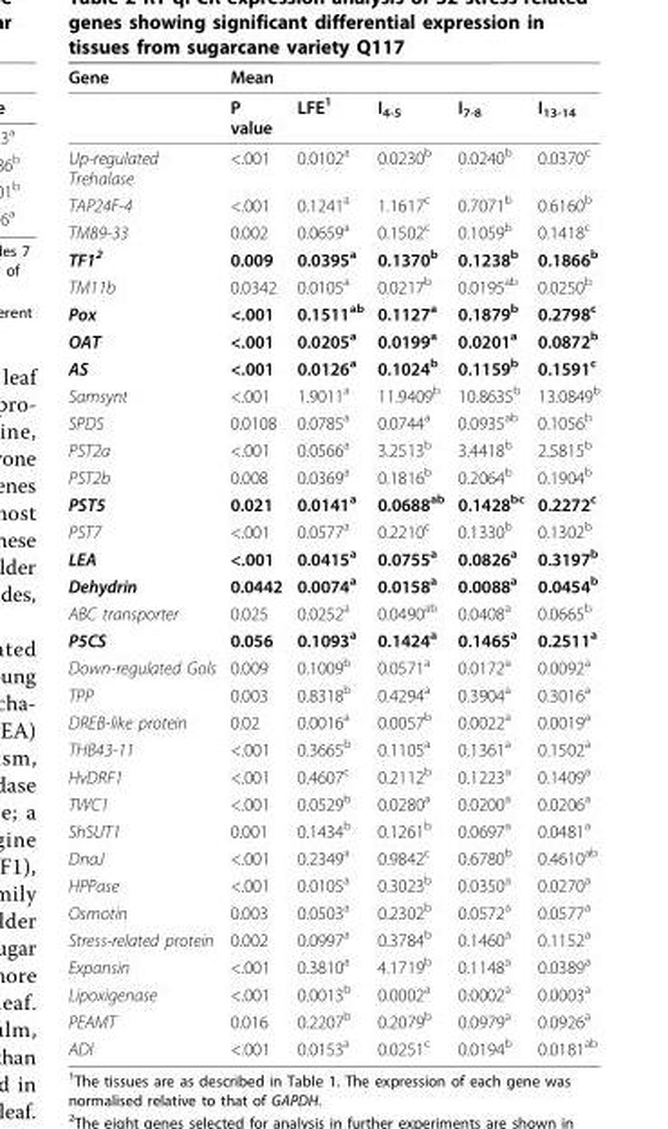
<table><thead><tr><td rowspan="2">Gene</td><td colspan="5">Mean</td></tr><tr><td>P value</td><td>LFE<sup>1</sup></td><td>I<sub>4-5</sub></td><td>I<sub>7-8</sub></td><td>I<sub>13-14</sub></td></tr></thead><tbody><tr><td>Up-regulated Trehalase</td><td>&lt;.001</td><td>0.0102<sup>a</sup></td><td>0.0230<sup>b</sup></td><td>0.0240<sup>b</sup></td><td>0.0370<sup>c</sup></td></tr><tr><td>TAP24F-4</td><td>&lt;.001</td><td>0.1241<sup>a</sup></td><td>1.1617<sup>c</sup></td><td>0.7071<sup>b</sup></td><td>0.6160<sup>b</sup></td></tr><tr><td>TM89-33</td><td>0.002</td><td>0.0659<sup>a</sup></td><td>0.1502<sup>c</sup></td><td>0.1059<sup>b</sup></td><td>0.1418<sup>c</sup></td></tr><tr><td>TF1<sup>2</sup></td><td>0.009</td><td>0.0395<sup>a</sup></td><td>0.1370<sup>b</sup></td><td>0.1238<sup>b</sup></td><td>0.1866<sup>b</sup></td></tr><tr><td>TM11b</td><td>0.0342</td><td>0.0105<sup>a</sup></td><td>0.0217<sup>b</sup></td><td>0.0195<sup>ab</sup></td><td>0.0250<sup>b</sup></td></tr><tr><td>Pox</td><td>&lt;.001</td><td>0.1511<sup>ab</sup></td><td>0.1127<sup>a</sup></td><td>0.1879<sup>b</sup></td><td>0.2798<sup>c</sup></td></tr><tr><td>OAT</td><td>&lt;.001</td><td>0.0205<sup>a</sup></td><td>0.0199<sup>a</sup></td><td>0.0201<sup>a</sup></td><td>0.0872<sup>b</sup></td></tr><tr><td>AS</td><td>&lt;.001</td><td>0.0126<sup>a</sup></td><td>0.1024<sup>b</sup></td><td>0.1159<sup>b</sup></td><td>0.1591<sup>c</sup></td></tr><tr><td>Samsynt</td><td>&lt;.001</td><td>1.9011<sup>a</sup></td><td>11.9409<sup>b</sup></td><td>10.8635<sup>b</sup></td><td>13.0849<sup>b</sup></td></tr><tr><td>SPDS</td><td>0.0108</td><td>0.0785<sup>a</sup></td><td>0.0744<sup>a</sup></td><td>0.0935<sup>ab</sup></td><td>0.1056<sup>b</sup></td></tr><tr><td>PST2a</td><td>&lt;.001</td><td>0.0566<sup>a</sup></td><td>3.2513<sup>b</sup></td><td>3.4418<sup>b</sup></td><td>2.5815<sup>b</sup></td></tr><tr><td>PST2b</td><td>0.008</td><td>0.0369<sup>a</sup></td><td>0.1816<sup>b</sup></td><td>0.2064<sup>b</sup></td><td>0.1904<sup>b</sup></td></tr><tr><td>PST5</td><td>0.021</td><td>0.0141<sup>a</sup></td><td>0.0688<sup>ab</sup></td><td>0.1428<sup>bc</sup></td><td>0.2272<sup>c</sup></td></tr><tr><td>PST7</td><td>&lt;.001</td><td>0.0577<sup>a</sup></td><td>0.2210<sup>c</sup></td><td>0.1330<sup>b</sup></td><td>0.1302<sup>b</sup></td></tr><tr><td>LEA</td><td>&lt;.001</td><td>0.0415<sup>a</sup></td><td>0.0755<sup>a</sup></td><td>0.0826<sup>a</sup></td><td>0.3197<sup>b</sup></td></tr><tr><td>Dehydrin</td><td>0.0442</td><td>0.0074<sup>a</sup></td><td>0.0158<sup>a</sup></td><td>0.0088<sup>a</sup></td><td>0.0454<sup>b</sup></td></tr><tr><td>ABC transporter</td><td>0.025</td><td>0.0252<sup>a</sup></td><td>0.0490<sup>ab</sup></td><td>0.0408<sup>a</sup></td><td>0.0665<sup>b</sup></td></tr><tr><td>P5CS</td><td>0.056</td><td>0.1093<sup>a</sup></td><td>0.1424<sup>a</sup></td><td>0.1465<sup>a</sup></td><td>0.2511<sup>a</sup></td></tr><tr><td>Down-regulated Gols</td><td>0.009</td><td>0.1009<sup>b</sup></td><td>0.0571<sup>a</sup></td><td>0.0172<sup>a</sup></td><td>0.0092<sup>a</sup></td></tr><tr><td>TPP</td><td>0.003</td><td>0.8318<sup>b</sup></td><td>0.4294<sup>a</sup></td><td>0.3904<sup>a</sup></td><td>0.3016<sup>a</sup></td></tr><tr><td>DREB-like protein</td><td>0.02</td><td>0.0016<sup>a</sup></td><td>0.0057<sup>b</sup></td><td>0.0022<sup>a</sup></td><td>0.0019<sup>a</sup></td></tr><tr><td>THB43-11</td><td>&lt;.001</td><td>0.3665<sup>b</sup></td><td>0.1105<sup>a</sup></td><td>0.1361<sup>a</sup></td><td>0.1502<sup>a</sup></td></tr><tr><td>HvDRF1</td><td>&lt;.001</td><td>0.4607<sup>c</sup></td><td>0.2112<sup>b</sup></td><td>0.1223<sup>a</sup></td><td>0.1409<sup>a</sup></td></tr><tr><td>TWC1</td><td>&lt;.001</td><td>0.0529<sup>b</sup></td><td>0.0280<sup>a</sup></td><td>0.0200<sup>a</sup></td><td>0.0206<sup>a</sup></td></tr><tr><td>ShSUT1</td><td>0.001</td><td>0.1434<sup>b</sup></td><td>0.1261<sup>b</sup></td><td>0.0697<sup>a</sup></td><td>0.0481<sup>a</sup></td></tr><tr><td>DnaJ</td><td>&lt;.001</td><td>0.2349<sup>a</sup></td><td>0.9842<sup>c</sup></td><td>0.6780<sup>b</sup></td><td>0.4610<sup>ab</sup></td></tr><tr><td>HPPase</td><td>&lt;.001</td><td>0.0105<sup>a</sup></td><td>0.3023<sup>b</sup></td><td>0.0350<sup>a</sup></td><td>0.0270<sup>a</sup></td></tr><tr><td>Osmotin</td><td>0.003</td><td>0.0503<sup>a</sup></td><td>0.2302<sup>b</sup></td><td>0.0572<sup>a</sup></td><td>0.0577<sup>a</sup></td></tr><tr><td>Stress-related protein</td><td>0.002</td><td>0.0997<sup>a</sup></td><td>0.3784<sup>b</sup></td><td>0.1460<sup>a</sup></td><td>0.1152<sup>a</sup></td></tr><tr><td>Expansin</td><td>&lt;.001</td><td>0.3810<sup>a</sup></td><td>4.1719<sup>b</sup></td><td>0.1148<sup>a</sup></td><td>0.0389<sup>a</sup></td></tr><tr><td>Lipoxigenase</td><td>&lt;.001</td><td>0.0013<sup>b</sup></td><td>0.0002<sup>a</sup></td><td>0.0002<sup>a</sup></td><td>0.0003<sup>a</sup></td></tr><tr><td>PEAMT</td><td>0.016</td><td>0.2207<sup>b</sup></td><td>0.2079<sup>b</sup></td><td>0.0979<sup>a</sup></td><td>0.0926<sup>a</sup></td></tr><tr><td>ADI</td><td>&lt;.001</td><td>0.0153<sup>a</sup></td><td>0.0251<sup>c</sup></td><td>0.0194<sup>b</sup></td><td>0.0181<sup>ab</sup></td></tr></tbody></table>